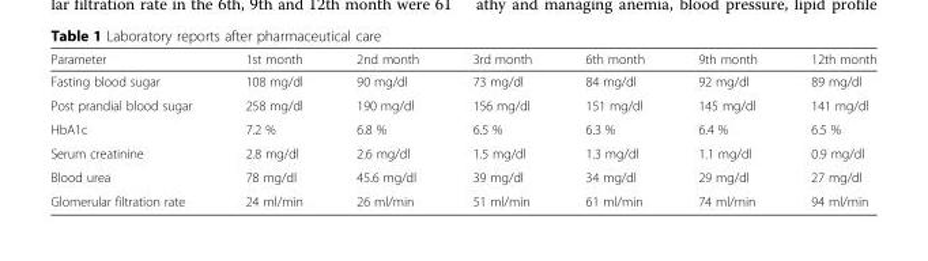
<table><thead><tr><td>Parameter</td><td>1st month</td><td>2nd month</td><td>3rd month</td><td>6th month</td><td>9th month</td><td>12th month</td></tr></thead><tbody><tr><td>Fasting blood sugar</td><td>108 mg/dl</td><td>90 mg/dl</td><td>73 mg/dl</td><td>84 mg/dl</td><td>92 mg/dl</td><td>89 mg/dl</td></tr><tr><td>Post prandial blood sugar</td><td>258 mg/dl</td><td>190 mg/dl</td><td>156 mg/dl</td><td>151 mg/dl</td><td>145 mg/dl</td><td>141 mg/dl</td></tr><tr><td>HbA1c</td><td>7.2 %</td><td>6.8 %</td><td>6.5 %</td><td>6.3 %</td><td>6.4 %</td><td>6.5 %</td></tr><tr><td>Serum creatinine</td><td>2.8 mg/dl</td><td>2.6 mg/dl</td><td>1.5 mg/dl</td><td>1.3 mg/dl</td><td>1.1 mg/dl</td><td>0.9 mg/dl</td></tr><tr><td>Blood urea</td><td>78 mg/dl</td><td>45.6 mg/dl</td><td>39 mg/dl</td><td>34 mg/dl</td><td>29 mg/dl</td><td>27 mg/dl</td></tr><tr><td>Glomerular filtration rate</td><td>24 ml/min</td><td>26 ml/min</td><td>51 ml/min</td><td>61 ml/min</td><td>74 ml/min</td><td>94 ml/min</td></tr></tbody></table>